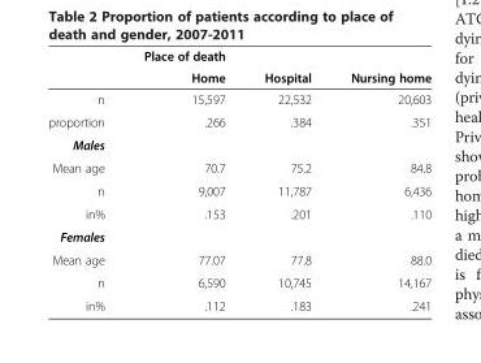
<table><thead><tr><td rowspan="2"></td><td rowspan="2">Place of death Home</td><td rowspan="2">Hospital</td><td rowspan="2">Nursing home</td></tr><tr></tr></thead><tbody><tr><td>n</td><td>15,597</td><td>22,532</td><td>20,603</td></tr><tr><td>proportion</td><td>.266</td><td>.384</td><td>.351</td></tr><tr><td colspan="4">Males</td></tr><tr><td>Mean age</td><td>70.7</td><td>75.2</td><td>84.8</td></tr><tr><td>n</td><td>9,007</td><td>11,787</td><td>6,436</td></tr><tr><td>in%</td><td>.153</td><td>.201</td><td>.110</td></tr><tr><td colspan="4">Females</td></tr><tr><td>Mean age</td><td>77.07</td><td>77.8</td><td>88.0</td></tr><tr><td>n</td><td>6,590</td><td>10,745</td><td>14,167</td></tr><tr><td>in%</td><td>.112</td><td>.183</td><td>.241</td></tr></tbody></table>